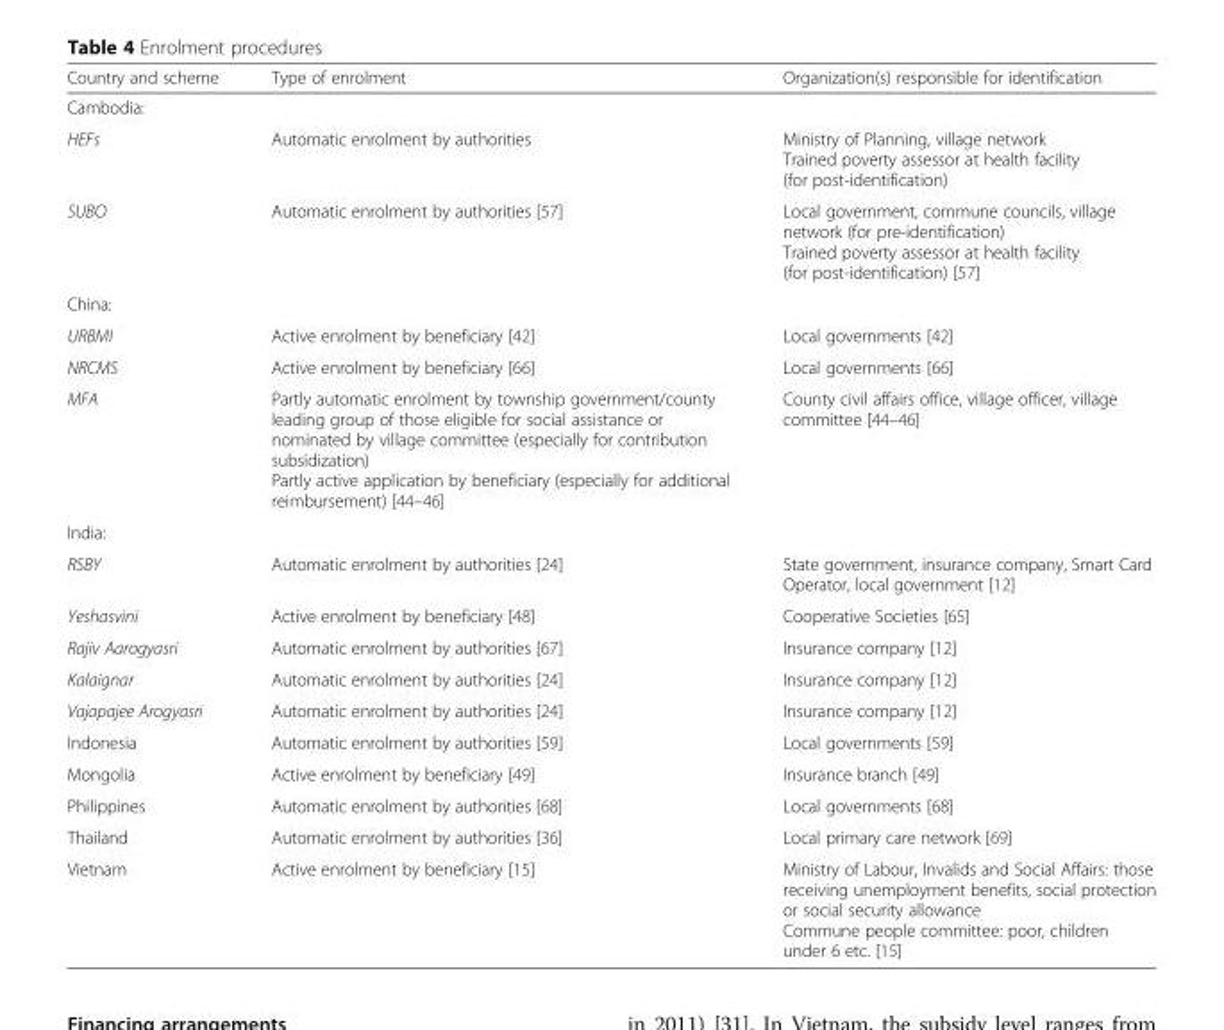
<table><thead><tr><td>Country and scheme</td><td>Type of enrolment</td><td>Organization(s) responsible for identification</td></tr></thead><tbody><tr><td colspan="3">Cambodia:</td></tr><tr><td>HEFs</td><td>Automatic enrolment by authorities</td><td>Ministry of Planning, village network Trained poverty assessor at health facility (for post-identification)</td></tr><tr><td>SUBO</td><td>Automatic enrolment by authorities [57]</td><td>Local government, commune councils, village network (for pre-identification) Trained poverty assessor at health facility (for post-identification) [57]</td></tr><tr><td colspan="3">China:</td></tr><tr><td>URBMI</td><td>Active enrolment by beneficiary [42]</td><td>Local governments [42]</td></tr><tr><td>NRCMS</td><td>Active enrolment by beneficiary [66]</td><td>Local governments [66]</td></tr><tr><td>MFA</td><td>Partly automatic enrolment by township government/county leading group of those eligible for social assistance or nominated by village committee (especially for contribution subsidization) Partly active application by beneficiary (especially for additional reimbursement) [44–46]</td><td>County civil affairs office, village officer, village committee [44–46]</td></tr><tr><td colspan="3">India:</td></tr><tr><td>RSBY</td><td>Automatic enrolment by authorities [24]</td><td>State government, insurance company, Smart Card Operator, local government [12]</td></tr><tr><td>Yeshasvini</td><td>Active enrolment by beneficiary [48]</td><td>Cooperative Societies [65]</td></tr><tr><td>Rajiv Aarogyasri</td><td>Automatic enrolment by authorities [67]</td><td>Insurance company [12]</td></tr><tr><td>Kalaignar</td><td>Automatic enrolment by authorities [24]</td><td>Insurance company [12]</td></tr><tr><td>Vajapajee Arogyasri</td><td>Automatic enrolment by authorities [24]</td><td>Insurance company [12]</td></tr><tr><td>Indonesia</td><td>Automatic enrolment by authorities [59]</td><td>Local governments [59]</td></tr><tr><td>Mongolia</td><td>Active enrolment by beneficiary [49]</td><td>Insurance branch [49]</td></tr><tr><td>Philippines</td><td>Automatic enrolment by authorities [68]</td><td>Local governments [68]</td></tr><tr><td>Thailand</td><td>Automatic enrolment by authorities [36]</td><td>Local primary care network [69]</td></tr><tr><td>Vietnam</td><td>Active enrolment by beneficiary [15]</td><td>Ministry of Labour, Invalids and Social Affairs: those receiving unemployment benefits, social protection or social security allowance Commune people committee: poor, children under 6 etc. [15]</td></tr></tbody></table>